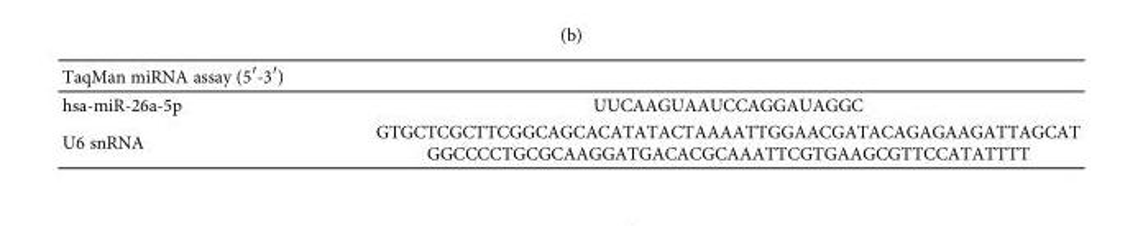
<table><thead><tr><td colspan="2">TaqMan miRNA assay (5′-3′)</td></tr><tr><td>hsa-miR-26a-5p</td><td>UUCAAGUAAUCCAGGAUAGGC</td></tr></thead><tbody><tr><td>U6 snRNA</td><td>GTGCTCGCTTCGGCAGCACATATACTAAAATTGGAACGATACAGAGAAGATTAGCAT GGCCCCTGCGCAAGGATGACACGCAAATTCGTGAAGCGTTCCATATTTT</td></tr></tbody></table>